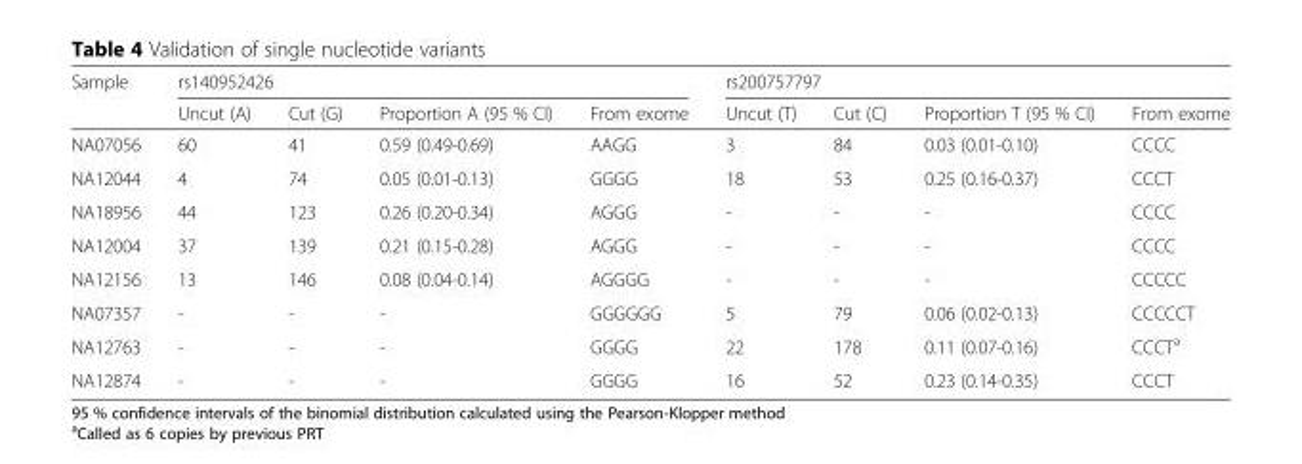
<table><thead><tr><td rowspan="2">Sample</td><td colspan="4">rs140952426</td><td colspan="4">rs200757797</td></tr><tr><td>Uncut (A)</td><td>Cut (G)</td><td>Proportion A (95 % CI)</td><td>From exome</td><td>Uncut (T)</td><td>Cut (C)</td><td>Proportion T (95 % CI)</td><td>From exome</td></tr></thead><tbody><tr><td>NA07056</td><td>60</td><td>41</td><td>0.59 (0.49-0.69)</td><td>AAGG</td><td>3</td><td>84</td><td>0.03 (0.01-0.10)</td><td>CCCC</td></tr><tr><td>NA12044</td><td>4</td><td>74</td><td>0.05 (0.01-0.13)</td><td>GGGG</td><td>18</td><td>53</td><td>0.25 (0.16-0.37)</td><td>CCCT</td></tr><tr><td>NA18956</td><td>44</td><td>123</td><td>0.26 (0.20-0.34)</td><td>AGGG</td><td>-</td><td>-</td><td>-</td><td>CCCC</td></tr><tr><td>NA12004</td><td>37</td><td>139</td><td>0.21 (0.15-0.28)</td><td>AGGG</td><td>-</td><td>-</td><td>-</td><td>CCCC</td></tr><tr><td>NA12156</td><td>13</td><td>146</td><td>0.08 (0.04-0.14)</td><td>AGGGG</td><td>-</td><td>-</td><td>-</td><td>CCCCC</td></tr><tr><td>NA07357</td><td>-</td><td>-</td><td>-</td><td>GGGGGG</td><td>5</td><td>79</td><td>0.06 (0.02-0.13)</td><td>CCCCCT</td></tr><tr><td>NA12763</td><td>-</td><td>-</td><td>-</td><td>GGGG</td><td>22</td><td>178</td><td>0.11 (0.07-0.16)</td><td>CCCT<sup>a</sup></td></tr><tr><td>NA12874</td><td>-</td><td>-</td><td>-</td><td>GGGG</td><td>16</td><td>52</td><td>0.23 (0.14-0.35)</td><td>CCCT</td></tr></tbody></table>